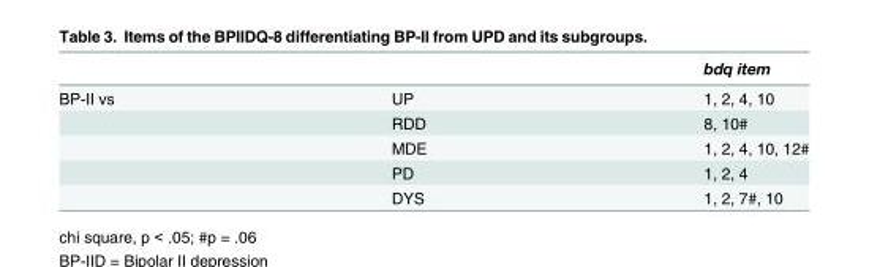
<table><thead><tr><td></td><td></td><td>bdq item</td></tr></thead><tbody><tr><td rowspan="5">BP-II vs</td><td>UP</td><td>1, 2, 4, 10</td></tr><tr><td>RDD</td><td>8, 10#</td></tr><tr><td>MDE</td><td>1, 2, 4, 10, 12#</td></tr><tr><td>PD</td><td>1, 2, 4</td></tr><tr><td>DYS</td><td>1, 2, 7#, 10</td></tr></tbody></table>